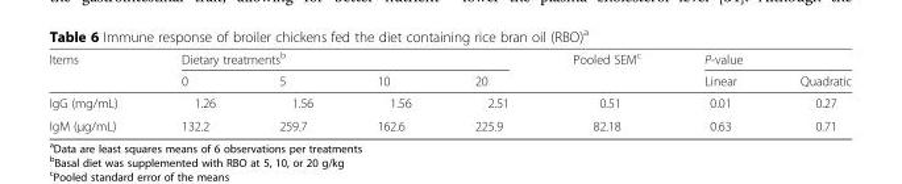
<table><thead><tr><td rowspan="2">Items</td><td colspan="4">Dietary treatments<sup>b</sup></td><td rowspan="2">Pooled SEM<sup>c</sup></td><td colspan="2">P-value</td></tr><tr><td>0</td><td>5</td><td>10</td><td>20</td><td>Linear</td><td>Quadratic</td></tr></thead><tbody><tr><td>IgG (mg/mL)</td><td>1.26</td><td>1.56</td><td>1.56</td><td>2.51</td><td>0.51</td><td>0.01</td><td>0.27</td></tr><tr><td>IgM (μg/mL)</td><td>132.2</td><td>259.7</td><td>162.6</td><td>225.9</td><td>82.18</td><td>0.63</td><td>0.71</td></tr></tbody></table>